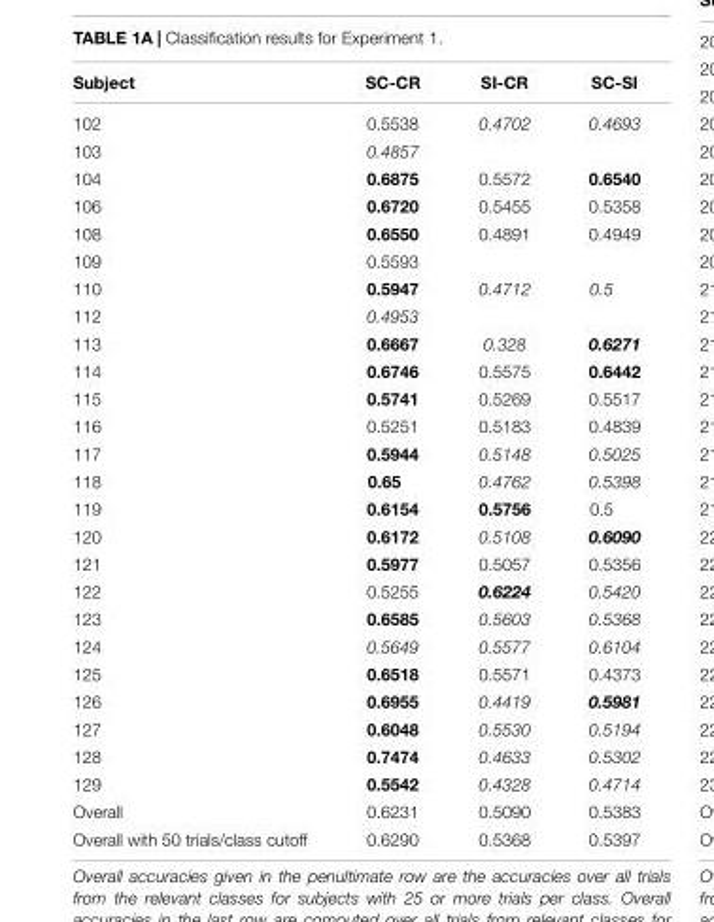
<table><thead><tr><td>Subject</td><td>SC-CR</td><td>SI-CR</td><td>SC-SI</td></tr></thead><tbody><tr><td>102</td><td>0.5538</td><td>0.4702</td><td>0.4693</td></tr><tr><td>103</td><td>0.4857</td><td></td><td></td></tr><tr><td>104</td><td>0.6875</td><td>0.5572</td><td>0.6540</td></tr><tr><td>106</td><td>0.6720</td><td>0.5455</td><td>0.5358</td></tr><tr><td>108</td><td>0.6550</td><td>0.4891</td><td>0.4949</td></tr><tr><td>109</td><td>0.5593</td><td></td><td></td></tr><tr><td>110</td><td>0.5947</td><td>0.4712</td><td>0.5</td></tr><tr><td>112</td><td>0.4953</td><td></td><td></td></tr><tr><td>113</td><td>0.6667</td><td>0.328</td><td>0.6271</td></tr><tr><td>114</td><td>0.6746</td><td>0.5575</td><td>0.6442</td></tr><tr><td>115</td><td>0.5741</td><td>0.5269</td><td>0.5517</td></tr><tr><td>116</td><td>0.5251</td><td>0.5183</td><td>0.4839</td></tr><tr><td>117</td><td>0.5944</td><td>0.5148</td><td>0.5025</td></tr><tr><td>118</td><td>0.65</td><td>0.4762</td><td>0.5398</td></tr><tr><td>119</td><td>0.6154</td><td>0.5756</td><td>0.5</td></tr><tr><td>120</td><td>0.6172</td><td>0.5108</td><td>0.6090</td></tr><tr><td>121</td><td>0.5977</td><td>0.5057</td><td>0.5356</td></tr><tr><td>122</td><td>0.5255</td><td>0.6224</td><td>0.5420</td></tr><tr><td>123</td><td>0.6585</td><td>0.5603</td><td>0.5368</td></tr><tr><td>124</td><td>0.5649</td><td>0.5577</td><td>0.6104</td></tr><tr><td>125</td><td>0.6518</td><td>0.5571</td><td>0.4373</td></tr><tr><td>126</td><td>0.6955</td><td>0.4419</td><td>0.5981</td></tr><tr><td>127</td><td>0.6048</td><td>0.5530</td><td>0.5194</td></tr><tr><td>128</td><td>0.7474</td><td>0.4633</td><td>0.5302</td></tr><tr><td>129</td><td>0.5542</td><td>0.4328</td><td>0.4714</td></tr><tr><td>Overall</td><td>0.6231</td><td>0.5090</td><td>0.5383</td></tr><tr><td>Overall with 50 trials/class cutoff</td><td>0.6290</td><td>0.5368</td><td>0.5397</td></tr></tbody></table>